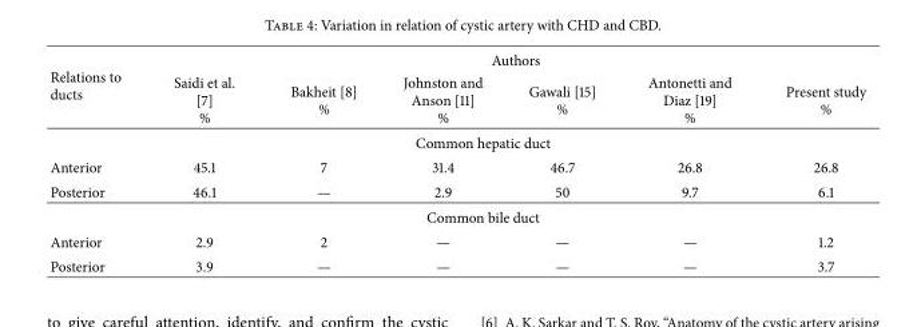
<table><thead><tr><td rowspan="2">Relations to ducts</td><td colspan="6">Authors</td></tr><tr><td>Saidi et al. [7] %</td><td>Bakheit [8] %</td><td>Johnston and Anson [11] %</td><td>Gawali [15] %</td><td>Antonetti and Diaz [19] %</td><td>Present study %</td></tr></thead><tbody><tr><td colspan="7">Common hepatic duct</td></tr><tr><td>Anterior</td><td>45.1</td><td>7</td><td>31.4</td><td>46.7</td><td>26.8</td><td>26.8</td></tr><tr><td>Posterior</td><td>46.1</td><td>—</td><td>2.9</td><td>50</td><td>9.7</td><td>6.1</td></tr><tr><td colspan="7">Common bile duct</td></tr><tr><td>Anterior</td><td>2.9</td><td>2</td><td>—</td><td>—</td><td>—</td><td>1.2</td></tr><tr><td>Posterior</td><td>3.9</td><td>—</td><td>—</td><td>—</td><td>—</td><td>3.7</td></tr></tbody></table>